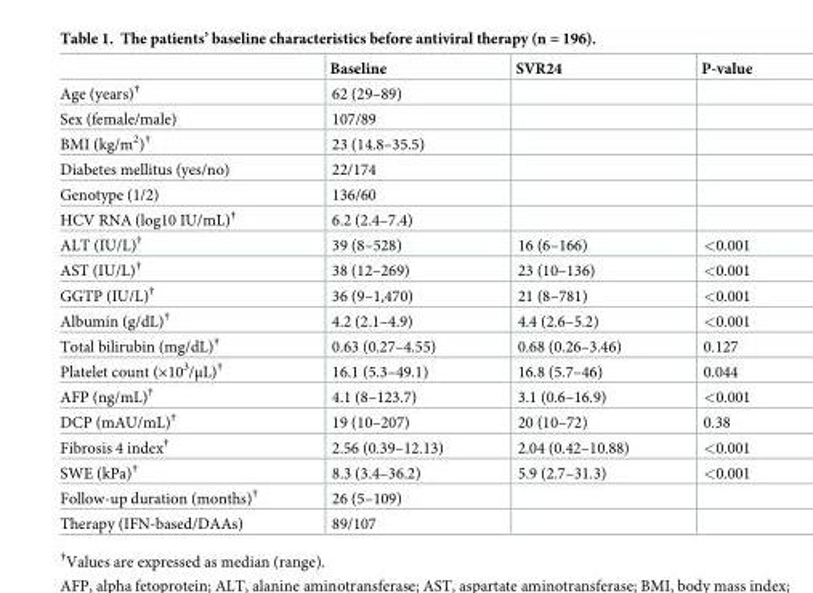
<table><thead><tr><td></td><td>Baseline</td><td>SVR24</td><td>P-value</td></tr></thead><tbody><tr><td>Age (years)<sup>†</sup></td><td>62 (29–89)</td><td></td><td></td></tr><tr><td>Sex (female/male)</td><td>107/89</td><td></td><td></td></tr><tr><td>BMI (kg/m<sup>2</sup>)<sup>†</sup></td><td>23 (14.8–35.5)</td><td></td><td></td></tr><tr><td>Diabetes mellitus (yes/no)</td><td>22/174</td><td></td><td></td></tr><tr><td>Genotype (1/2)</td><td>136/60</td><td></td><td></td></tr><tr><td>HCV RNA (log10 IU/mL)<sup>†</sup></td><td>6.2 (2.4–7.4)</td><td></td><td></td></tr><tr><td>ALT (IU/L)<sup>†</sup></td><td>39 (8–528)</td><td>16 (6–166)</td><td>&lt;0.001</td></tr><tr><td>AST (IU/L)<sup>†</sup></td><td>38 (12–269)</td><td>23 (10–136)</td><td>&lt;0.001</td></tr><tr><td>GGTP (IU/L)<sup>†</sup></td><td>36 (9–1,470)</td><td>21 (8–781)</td><td>&lt;0.001</td></tr><tr><td>Albumin (g/dL)<sup>†</sup></td><td>4.2 (2.1–4.9)</td><td>4.4 (2.6–5.2)</td><td>&lt;0.001</td></tr><tr><td>Total bilirubin (mg/dL)<sup>†</sup></td><td>0.63 (0.27–4.55)</td><td>0.68 (0.26–3.46)</td><td>0.127</td></tr><tr><td>Platelet count (×10<sup>3</sup>/μL)<sup>†</sup></td><td>16.1 (5.3–49.1)</td><td>16.8 (5.7–46)</td><td>0.044</td></tr><tr><td>AFP (ng/mL)<sup>†</sup></td><td>4.1 (8–123.7)</td><td>3.1 (0.6–16.9)</td><td>&lt;0.001</td></tr><tr><td>DCP (mAU/mL)<sup>†</sup></td><td>19 (10–207)</td><td>20 (10–72)</td><td>0.38</td></tr><tr><td>Fibrosis 4 index<sup>†</sup></td><td>2.56 (0.39–12.13)</td><td>2.04 (0.42–10.88)</td><td>&lt;0.001</td></tr><tr><td>SWE (kPa)<sup>†</sup></td><td>8.3 (3.4–36.2)</td><td>5.9 (2.7–31.3)</td><td>&lt;0.001</td></tr><tr><td>Follow-up duration (months)<sup>†</sup></td><td>26 (5–109)</td><td></td><td></td></tr><tr><td>Therapy (IFN-based/DAAs)</td><td>89/107</td><td></td><td></td></tr></tbody></table>